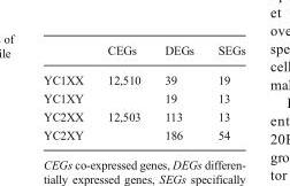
<table><thead><tr><td></td><td>CEGs</td><td>DEGs</td><td>SEGs</td></tr></thead><tbody><tr><td>YC1XX</td><td rowspan="2">12,510</td><td>39</td><td>19</td></tr><tr><td>YC1XY</td><td>19</td><td>13</td></tr><tr><td>YC2XX</td><td rowspan="2">12,503</td><td>113</td><td>13</td></tr><tr><td>YC2XY</td><td>186</td><td>54</td></tr></tbody></table>